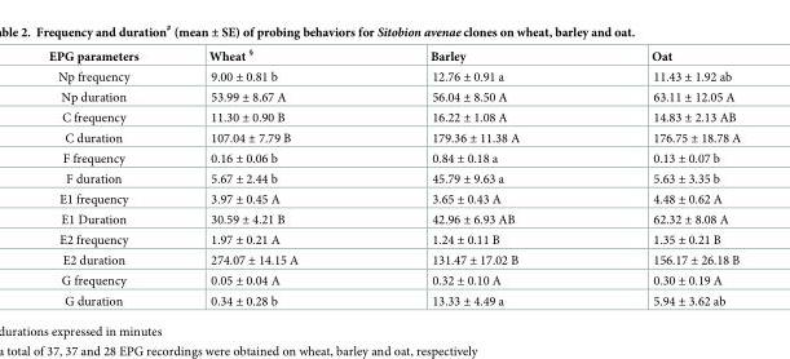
<table><thead><tr><td>EPG parameters</td><td>Wheat <sup>§</sup></td><td>Barley</td><td>Oat</td></tr></thead><tbody><tr><td>Np frequency</td><td>9.00 ± 0.81 b</td><td>12.76 ± 0.91 a</td><td>11.43 ± 1.92 ab</td></tr><tr><td>Np duration</td><td>53.99 ± 8.67 A</td><td>56.04 ± 8.50 A</td><td>63.11 ± 12.05 A</td></tr><tr><td>C frequency</td><td>11.30 ± 0.90 B</td><td>16.22 ± 1.08 A</td><td>14.83 ± 2.13 AB</td></tr><tr><td>C duration</td><td>107.04 ± 7.79 B</td><td>179.36 ± 11.38 A</td><td>176.75 ± 18.78 A</td></tr><tr><td>F frequency</td><td>0.16 ± 0.06 b</td><td>0.84 ± 0.18 a</td><td>0.13 ± 0.07 b</td></tr><tr><td>F duration</td><td>5.67 ± 2.44 b</td><td>45.79 ± 9.63 a</td><td>5.63 ± 3.35 b</td></tr><tr><td>E1 frequency</td><td>3.97 ± 0.45 A</td><td>3.65 ± 0.43 A</td><td>4.48 ± 0.62 A</td></tr><tr><td>E1 Duration</td><td>30.59 ± 4.21 B</td><td>42.96 ± 6.93 AB</td><td>62.32 ± 8.08 A</td></tr><tr><td>E2 frequency</td><td>1.97 ± 0.21 A</td><td>1.24 ± 0.11 B</td><td>1.35 ± 0.21 B</td></tr><tr><td>E2 duration</td><td>274.07 ± 14.15 A</td><td>131.47 ± 17.02 B</td><td>156.17 ± 26.18 B</td></tr><tr><td>G frequency</td><td>0.05 ± 0.04 A</td><td>0.32 ± 0.10 A</td><td>0.30 ± 0.19 A</td></tr><tr><td>G duration</td><td>0.34 ± 0.28 b</td><td>13.33 ± 4.49 a</td><td>5.94 ± 3.62 ab</td></tr></tbody></table>